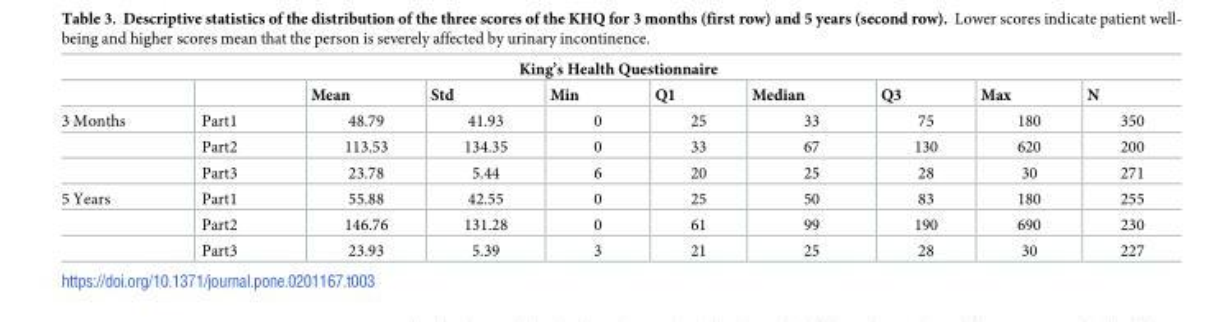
<table><thead><tr><td colspan="10">King’s Health Questionnaire</td></tr><tr><td></td><td></td><td>Mean</td><td>Std</td><td>Min</td><td>Q1</td><td>Median</td><td>Q3</td><td>Max</td><td>N</td></tr></thead><tbody><tr><td rowspan="3">3 Months</td><td>Part1</td><td>48.79</td><td>41.93</td><td>0</td><td>25</td><td>33</td><td>75</td><td>180</td><td>350</td></tr><tr><td>Part2</td><td>113.53</td><td>134.35</td><td>0</td><td>33</td><td>67</td><td>130</td><td>620</td><td>200</td></tr><tr><td>Part3</td><td>23.78</td><td>5.44</td><td>6</td><td>20</td><td>25</td><td>28</td><td>30</td><td>271</td></tr><tr><td rowspan="3">5 Years</td><td>Part1</td><td>55.88</td><td>42.55</td><td>0</td><td>25</td><td>50</td><td>83</td><td>180</td><td>255</td></tr><tr><td>Part2</td><td>146.76</td><td>131.28</td><td>0</td><td>61</td><td>99</td><td>190</td><td>690</td><td>230</td></tr><tr><td>Part3</td><td>23.93</td><td>5.39</td><td>3</td><td>21</td><td>25</td><td>28</td><td>30</td><td>227</td></tr></tbody></table>